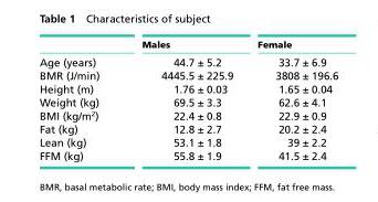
<table><thead><tr><td></td><td>Males</td><td>Female</td></tr></thead><tbody><tr><td>Age (years)</td><td>44.7 ± 5.2</td><td>33.7 ± 6.9</td></tr><tr><td>BMR (J/min)</td><td>4445.5 ± 225.9</td><td>3808 ± 196.6</td></tr><tr><td>Height (m)</td><td>1.76 ± 0.03</td><td>1.65 ± 0.04</td></tr><tr><td>Weight (kg)</td><td>69.5 ± 3.3</td><td>62.6 ± 4.1</td></tr><tr><td>BMI (kg/m<sup>2</sup>)</td><td>22.4 ± 0.8</td><td>22.9 ± 0.9</td></tr><tr><td>Fat (kg)</td><td>12.8 ± 2.7</td><td>20.2 ± 2.4</td></tr><tr><td>Lean (kg)</td><td>53.1 ± 1.8</td><td>39 ± 2.2</td></tr><tr><td>FFM (kg)</td><td>55.8 ± 1.9</td><td>41.5 ± 2.4</td></tr></tbody></table>